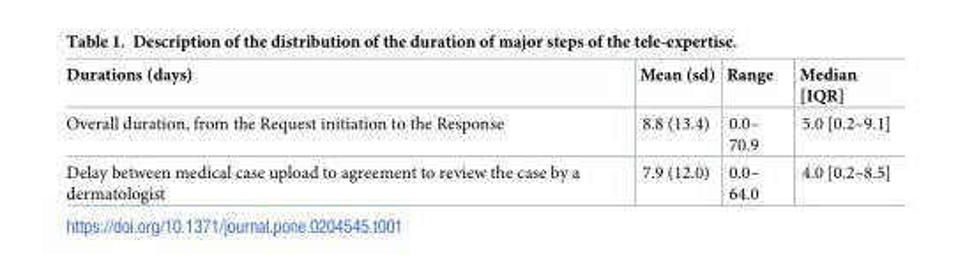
<table><thead><tr><td>Durations (days)</td><td>Mean (sd)</td><td>Range</td><td>Median [IQR]</td></tr></thead><tbody><tr><td>Overall duration, from the Request initiation to the Response</td><td>8.8 (13.4)</td><td>0.0– 70.9</td><td>5.0 [0.2–9.1]</td></tr><tr><td>Delay between medical case upload to agreement to review the case by a dermatologist</td><td>7.9 (12.0)</td><td>0.0– 64.0</td><td>4.0 [0.2–8.5]</td></tr></tbody></table>